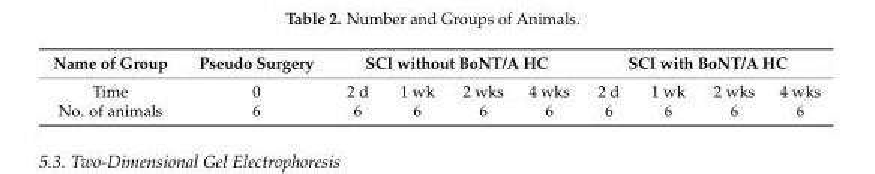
<table><thead><tr><td rowspan="2">Name of Group Time</td><td rowspan="2">Pseudo Surgery 0</td><td colspan="4">SCI without BoNT/A HC</td><td colspan="4">SCI with BoNT/A HC</td></tr><tr><td>2 d</td><td>1 wk</td><td>2 wks</td><td>4 wks</td><td>2 d</td><td>1 wk</td><td>2 wks</td><td>4 wks</td></tr></thead><tbody><tr><td>No. of animals</td><td>6</td><td>6</td><td>6</td><td>6</td><td>6</td><td>6</td><td>6</td><td>6</td><td>6</td></tr></tbody></table>